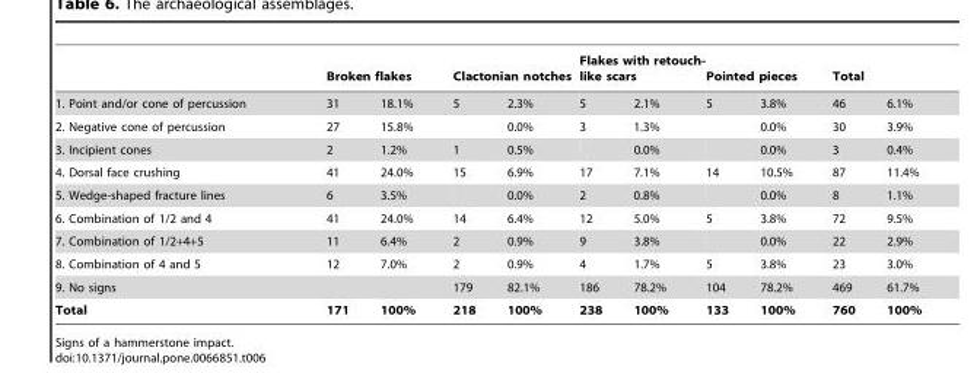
<table><thead><tr><td rowspan="2">1. Point and/or cone of percussion</td><td colspan="2">Broken flakes</td><td colspan="2">Clactonian notches</td><td colspan="2">Flakes with retouch- like scars</td><td colspan="2">Pointed pieces</td><td colspan="2">Total</td></tr><tr><td>31</td><td>18.1%</td><td>5</td><td>2.3%</td><td>5</td><td>2.1%</td><td>5</td><td>3.8%</td><td>46</td><td>6.1%</td></tr></thead><tbody><tr><td>2. Negative cone of percussion</td><td>27</td><td>15.8%</td><td></td><td>0.0%</td><td>3</td><td>1.3%</td><td></td><td>0.0%</td><td>30</td><td>3.9%</td></tr><tr><td>3. Incipient cones</td><td>2</td><td>1.2%</td><td>1</td><td>0.5%</td><td></td><td>0.0%</td><td></td><td>0.0%</td><td>3</td><td>0.4%</td></tr><tr><td>4. Dorsal face crushing</td><td>41</td><td>24.0%</td><td>15</td><td>6.9%</td><td>17</td><td>7.1%</td><td>14</td><td>10.5%</td><td>87</td><td>11.4%</td></tr><tr><td>5. Wedge-shaped fracture lines</td><td>6</td><td>3.5%</td><td></td><td>0.0%</td><td>2</td><td>0.8%</td><td></td><td>0.0%</td><td>8</td><td>1.1%</td></tr><tr><td>6. Combination of 1/2 and 4</td><td>41</td><td>24.0%</td><td>14</td><td>6.4%</td><td>12</td><td>5.0%</td><td>5</td><td>3.8%</td><td>72</td><td>9.5%</td></tr><tr><td>7. Combination of 1/2+4+5</td><td>11</td><td>6.4%</td><td>2</td><td>0.9%</td><td>9</td><td>3.8%</td><td></td><td>0.0%</td><td>22</td><td>2.9%</td></tr><tr><td>8. Combination of 4 and 5</td><td>12</td><td>7.0%</td><td>2</td><td>0.9%</td><td>4</td><td>1.7%</td><td>5</td><td>3.8%</td><td>23</td><td>3.0%</td></tr><tr><td>9. No signs</td><td></td><td></td><td>179</td><td>82.1%</td><td>186</td><td>78.2%</td><td>104</td><td>78.2%</td><td>469</td><td>61.7%</td></tr><tr><td>Total</td><td>171</td><td>100%</td><td>218</td><td>100%</td><td>238</td><td>100%</td><td>133</td><td>100%</td><td>760</td><td>100%</td></tr></tbody></table>